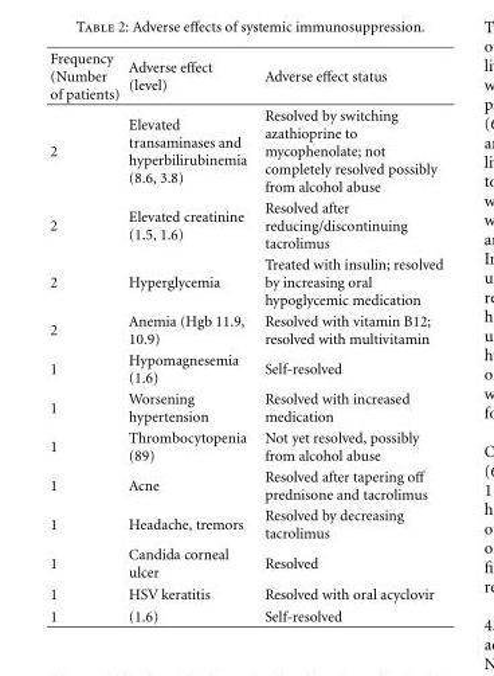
<table><thead><tr><td>Frequency (Number of patients)</td><td>Adverse effect (level)</td><td>Adverse effect status</td></tr></thead><tbody><tr><td>2</td><td>Elevated transaminases and hyperbilirubinemia (8.6, 3.8)</td><td>Resolved by switching azathioprine to mycophenolate; not completely resolved possibly from alcohol abuse</td></tr><tr><td>2</td><td>Elevated creatinine (1.5, 1.6)</td><td>Resolved after reducing/discontinuing tacrolimus</td></tr><tr><td>2</td><td>Hyperglycemia</td><td>Treated with insulin; resolved by increasing oral hypoglycemic medication</td></tr><tr><td>2</td><td>Anemia (Hgb 11.9, 10.9)</td><td>Resolved with vitamin B12; resolved with multivitamin</td></tr><tr><td>1</td><td>Hypomagnesemia (1.6)</td><td>Self-resolved</td></tr><tr><td>1</td><td>Worsening hypertension</td><td>Resolved with increased medication</td></tr><tr><td>1</td><td>Thrombocytopenia (89)</td><td>Not yet resolved, possibly from alcohol abuse</td></tr><tr><td>1</td><td>Acne</td><td>Resolved after tapering off prednisone and tacrolimus</td></tr><tr><td>1</td><td>Headache, tremors</td><td>Resolved by decreasing tacrolimus</td></tr><tr><td>1</td><td>Candida corneal ulcer</td><td>Resolved</td></tr><tr><td>1</td><td>HSV keratitis</td><td>Resolved with oral acyclovir</td></tr><tr><td>1</td><td>(1.6)</td><td>Self-resolved</td></tr></tbody></table>